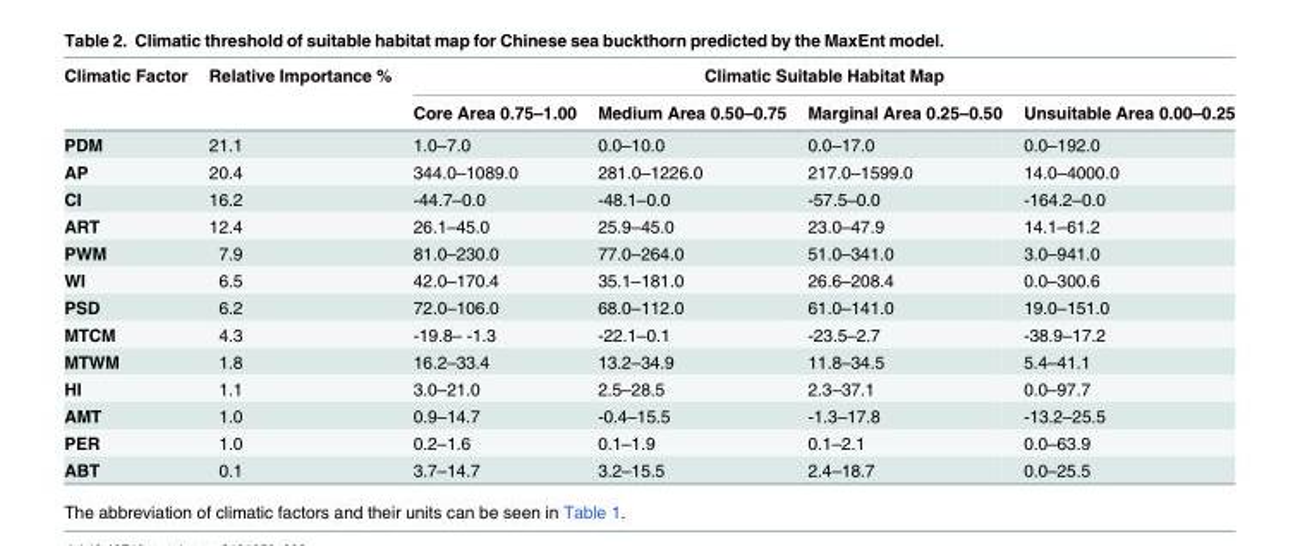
<table><thead><tr><td rowspan="2">Climatic Factor</td><td rowspan="2">Relative Importance %</td><td colspan="4">Climatic Suitable Habitat Map</td></tr><tr><td>Core Area 0.75–1.00</td><td>Medium Area 0.50–0.75</td><td>Marginal Area 0.25–0.50</td><td>Unsuitable Area 0.00–0.25</td></tr></thead><tbody><tr><td>PDM</td><td>21.1</td><td>1.0–7.0</td><td>0.0–10.0</td><td>0.0–17.0</td><td>0.0–192.0</td></tr><tr><td>AP</td><td>20.4</td><td>344.0–1089.0</td><td>281.0–1226.0</td><td>217.0–1599.0</td><td>14.0–4000.0</td></tr><tr><td>CI</td><td>16.2</td><td>-44.7–0.0</td><td>-48.1–0.0</td><td>-57.5–0.0</td><td>-164.2–0.0</td></tr><tr><td>ART</td><td>12.4</td><td>26.1–45.0</td><td>25.9–45.0</td><td>23.0–47.9</td><td>14.1–61.2</td></tr><tr><td>PWM</td><td>7.9</td><td>81.0–230.0</td><td>77.0–264.0</td><td>51.0–341.0</td><td>3.0–941.0</td></tr><tr><td>WI</td><td>6.5</td><td>42.0–170.4</td><td>35.1–181.0</td><td>26.6–208.4</td><td>0.0–300.6</td></tr><tr><td>PSD</td><td>6.2</td><td>72.0–106.0</td><td>68.0–112.0</td><td>61.0–141.0</td><td>19.0–151.0</td></tr><tr><td>MTCM</td><td>4.3</td><td>-19.8– -1.3</td><td>-22.1–0.1</td><td>-23.5–2.7</td><td>-38.9–17.2</td></tr><tr><td>MTWM</td><td>1.8</td><td>16.2–33.4</td><td>13.2–34.9</td><td>11.8–34.5</td><td>5.4–41.1</td></tr><tr><td>HI</td><td>1.1</td><td>3.0–21.0</td><td>2.5–28.5</td><td>2.3–37.1</td><td>0.0–97.7</td></tr><tr><td>AMT</td><td>1.0</td><td>0.9–14.7</td><td>-0.4–15.5</td><td>-1.3–17.8</td><td>-13.2–25.5</td></tr><tr><td>PER</td><td>1.0</td><td>0.2–1.6</td><td>0.1–1.9</td><td>0.1–2.1</td><td>0.0–63.9</td></tr><tr><td>ABT</td><td>0.1</td><td>3.7–14.7</td><td>3.2–15.5</td><td>2.4–18.7</td><td>0.0–25.5</td></tr></tbody></table>